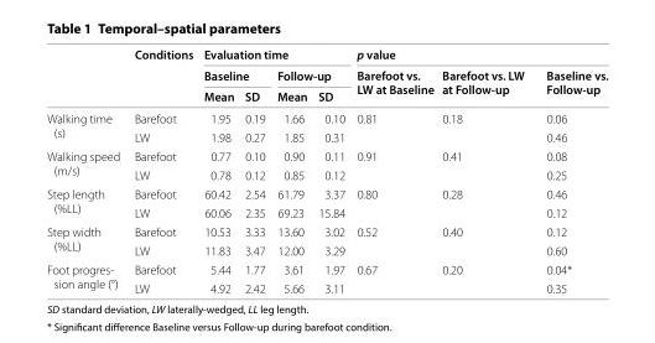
<table><thead><tr><td rowspan="3"></td><td rowspan="3">Conditions</td><td colspan="4">Evaluation time</td><td colspan="3">p value</td></tr><tr><td colspan="2">Baseline</td><td colspan="2">Follow‑up</td><td rowspan="2">Barefoot vs. LW at Baseline</td><td rowspan="2">Barefoot vs. LW at Follow‑up</td><td rowspan="2">Baseline vs. Follow‑up</td></tr><tr><td>Mean</td><td>SD</td><td>Mean</td><td>SD</td></tr></thead><tbody><tr><td rowspan="2">Walking time (s)</td><td>Barefoot</td><td>1.95</td><td>0.19</td><td>1.66</td><td>0.10</td><td rowspan="2">0.81</td><td rowspan="2">0.18</td><td>0.06</td></tr><tr><td>LW</td><td>1.98</td><td>0.27</td><td>1.85</td><td>0.31</td><td>0.46</td></tr><tr><td rowspan="2">Walking speed (m/s)</td><td>Barefoot</td><td>0.77</td><td>0.10</td><td>0.90</td><td>0.11</td><td rowspan="2">0.91</td><td rowspan="2">0.41</td><td>0.08</td></tr><tr><td>LW</td><td>0.78</td><td>0.12</td><td>0.85</td><td>0.12</td><td>0.25</td></tr><tr><td rowspan="2">Step length (%LL)</td><td>Barefoot</td><td>60.42</td><td>2.54</td><td>61.79</td><td>3.37</td><td rowspan="2">0.80</td><td rowspan="2">0.28</td><td>0.46</td></tr><tr><td>LW</td><td>60.06</td><td>2.35</td><td>69.23</td><td>15.84</td><td>0.12</td></tr><tr><td rowspan="2">Step width (%LL)</td><td>Barefoot</td><td>10.53</td><td>3.33</td><td>13.60</td><td>3.02</td><td rowspan="2">0.52</td><td rowspan="2">0.40</td><td>0.12</td></tr><tr><td>LW</td><td>11.83</td><td>3.47</td><td>12.00</td><td>3.29</td><td>0.60</td></tr><tr><td rowspan="2">Foot progres‑ sion angle (°)</td><td>Barefoot</td><td>5.44</td><td>1.77</td><td>3.61</td><td>1.97</td><td rowspan="2">0.67</td><td rowspan="2">0.20</td><td>0.04*</td></tr><tr><td>LW</td><td>4.92</td><td>2.42</td><td>5.66</td><td>3.11</td><td>0.35</td></tr></tbody></table>